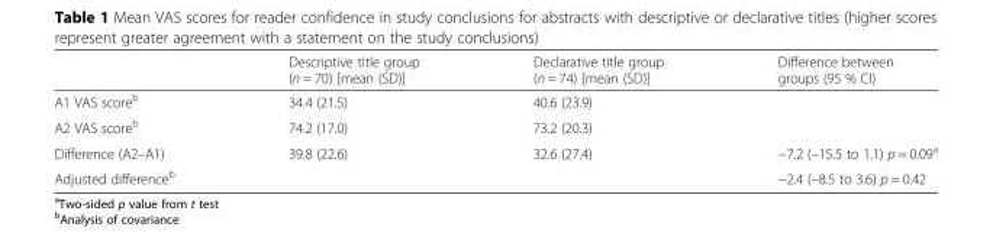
<table><thead><tr><td></td><td>Descriptive title group (n = 70) [mean (SD)]</td><td>Declarative title group (n = 74) [mean (SD)]</td><td>Difference between groups (95 % CI)</td></tr></thead><tbody><tr><td>A1 VAS score<sup>b</sup></td><td>34.4 (21.5)</td><td>40.6 (23.9)</td><td></td></tr><tr><td>A2 VAS score<sup>b</sup></td><td>74.2 (17.0)</td><td>73.2 (20.3)</td><td></td></tr><tr><td>Difference (A2–A1)</td><td>39.8 (22.6)</td><td>32.6 (27.4)</td><td>−7.2 (–15.5 to 1.1) p = 0.09<sup>a</sup></td></tr><tr><td>Adjusted difference<sup>b</sup></td><td></td><td></td><td>−2.4 (–8.5 to 3.6) p = 0.42</td></tr></tbody></table>